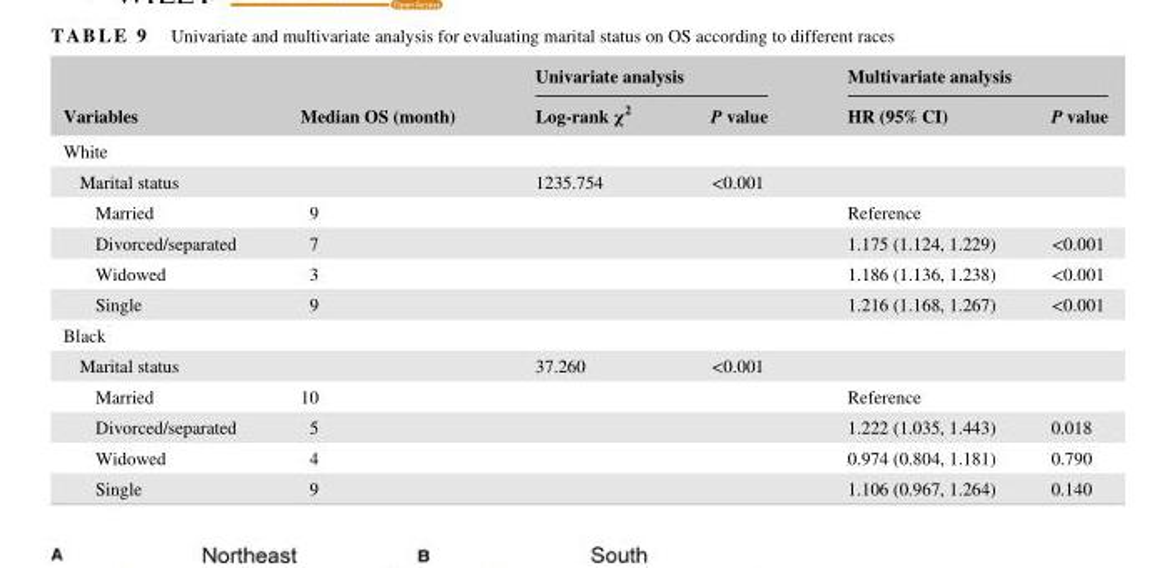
<table><thead><tr><td rowspan="2">Variables</td><td rowspan="2">Median OS (month)</td><td colspan="2">Univariate analysis</td><td colspan="2">Multivariate analysis</td></tr><tr><td>Log- rank χ<sup>2</sup></td><td>P value</td><td>HR (95% CI)</td><td>P value</td></tr></thead><tbody><tr><td colspan="6">White</td></tr><tr><td>Marital status</td><td></td><td>1235.754</td><td>&lt;0.001</td><td></td><td></td></tr><tr><td>Married</td><td>9</td><td></td><td></td><td>Reference</td><td></td></tr><tr><td>Divorced/separated</td><td>7</td><td></td><td></td><td>1.175 (1.124, 1.229)</td><td>&lt;0.001</td></tr><tr><td>Widowed</td><td>3</td><td></td><td></td><td>1.186 (1.136, 1.238)</td><td>&lt;0.001</td></tr><tr><td>Single</td><td>9</td><td></td><td></td><td>1.216 (1.168, 1.267)</td><td>&lt;0.001</td></tr><tr><td colspan="6">Black</td></tr><tr><td>Marital status</td><td></td><td>37.260</td><td>&lt;0.001</td><td></td><td></td></tr><tr><td>Married</td><td>10</td><td></td><td></td><td>Reference</td><td></td></tr><tr><td>Divorced/separated</td><td>5</td><td></td><td></td><td>1.222 (1.035, 1.443)</td><td>0.018</td></tr><tr><td>Widowed</td><td>4</td><td></td><td></td><td>0.974 (0.804, 1.181)</td><td>0.790</td></tr><tr><td>Single</td><td>9</td><td></td><td></td><td>1.106 (0.967, 1.264)</td><td>0.140</td></tr></tbody></table>